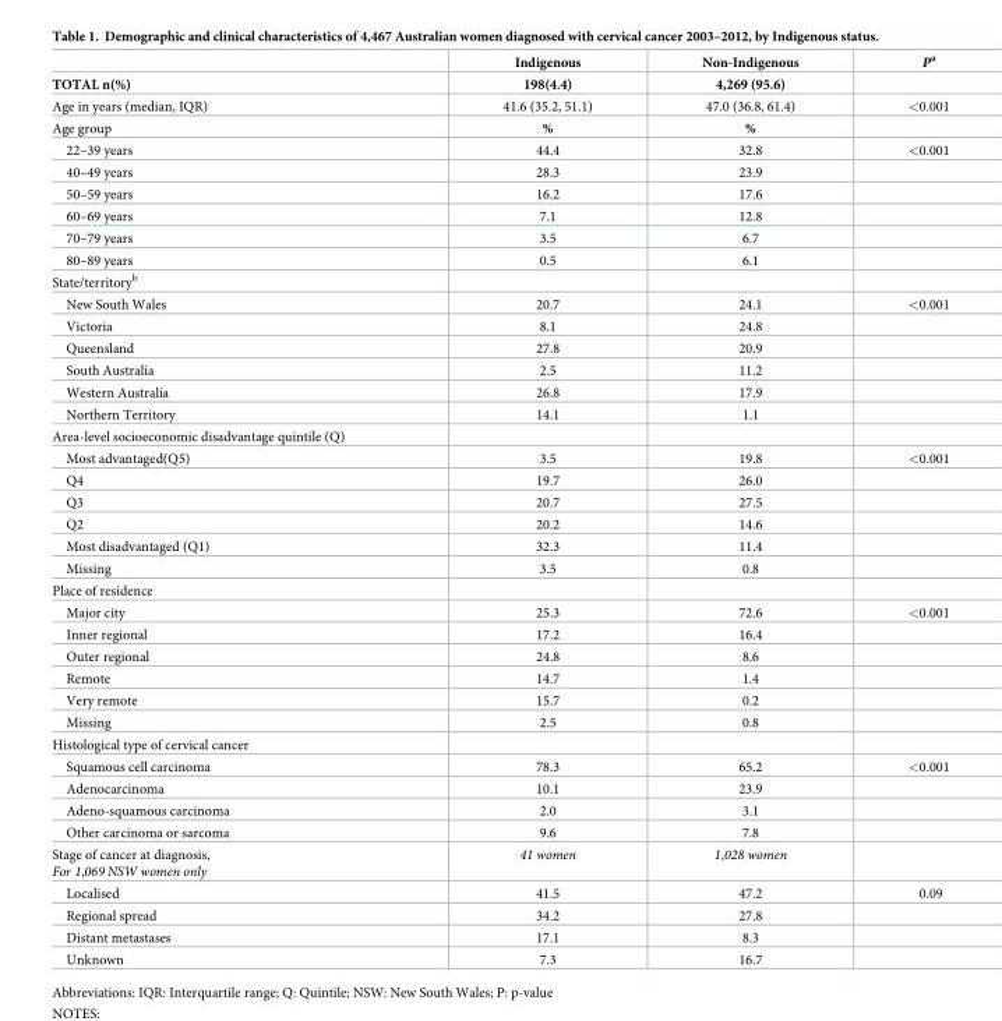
<table><thead><tr><td rowspan="2">TOTAL n(%)</td><td rowspan="2">Indigenous 198(4.4)</td><td rowspan="2">Non-Indigenous 4,269 (95.6)</td><td rowspan="2">P<sup>a</sup></td></tr><tr></tr></thead><tbody><tr><td>Age in years (median, IQR)</td><td>41.6 (35.2, 51.1)</td><td>47.0 (36.8, 61.4)</td><td>&lt;0.001</td></tr><tr><td>Age group</td><td>%</td><td>%</td><td></td></tr><tr><td>22–39 years</td><td>44.4</td><td>32.8</td><td>&lt;0.001</td></tr><tr><td>40–49 years</td><td>28.3</td><td>23.9</td><td></td></tr><tr><td>50–59 years</td><td>16.2</td><td>17.6</td><td></td></tr><tr><td>60–69 years</td><td>7.1</td><td>12.8</td><td></td></tr><tr><td>70–79 years</td><td>3.5</td><td>6.7</td><td></td></tr><tr><td>80–89 years</td><td>0.5</td><td>6.1</td><td></td></tr><tr><td colspan="4">State/territory<sup>b</sup></td></tr><tr><td>New South Wales</td><td>20.7</td><td>24.1</td><td>&lt;0.001</td></tr><tr><td>Victoria</td><td>8.1</td><td>24.8</td><td></td></tr><tr><td>Queensland</td><td>27.8</td><td>20.9</td><td></td></tr><tr><td>South Australia</td><td>2.5</td><td>11.2</td><td></td></tr><tr><td>Western Australia</td><td>26.8</td><td>17.9</td><td></td></tr><tr><td>Northern Territory</td><td>14.1</td><td>1.1</td><td></td></tr><tr><td colspan="4">Area-level socioeconomic disadvantage quintile (Q)</td></tr><tr><td>Most advantaged(Q5)</td><td>3.5</td><td>19.8</td><td>&lt;0.001</td></tr><tr><td>Q4</td><td>19.7</td><td>26.0</td><td></td></tr><tr><td>Q3</td><td>20.7</td><td>27.5</td><td></td></tr><tr><td>Q2</td><td>20.2</td><td>14.6</td><td></td></tr><tr><td>Most disadvantaged (Q1)</td><td>32.3</td><td>11.4</td><td></td></tr><tr><td>Missing</td><td>3.5</td><td>0.8</td><td></td></tr><tr><td colspan="4">Place of residence</td></tr><tr><td>Major city</td><td>25.3</td><td>72.6</td><td>&lt;0.001</td></tr><tr><td>Inner regional</td><td>17.2</td><td>16.4</td><td></td></tr><tr><td>Outer regional</td><td>24.8</td><td>8.6</td><td></td></tr><tr><td>Remote</td><td>14.7</td><td>1.4</td><td></td></tr><tr><td>Very remote</td><td>15.7</td><td>0.2</td><td></td></tr><tr><td>Missing</td><td>2.5</td><td>0.8</td><td></td></tr><tr><td colspan="4">Histological type of cervical cancer</td></tr><tr><td>Squamous cell carcinoma</td><td>78.3</td><td>65.2</td><td>&lt;0.001</td></tr><tr><td>Adenocarcinoma</td><td>10.1</td><td>23.9</td><td></td></tr><tr><td>Adeno-squamous carcinoma</td><td>2.0</td><td>3.1</td><td></td></tr><tr><td>Other carcinoma or sarcoma</td><td>9.6</td><td>7.8</td><td></td></tr><tr><td>Stage of cancer at diagnosis, For 1,069 NSW women only</td><td>41 women</td><td>1,028 women</td><td></td></tr><tr><td>Localised</td><td>41.5</td><td>47.2</td><td>0.09</td></tr><tr><td>Regional spread</td><td>34.2</td><td>27.8</td><td></td></tr><tr><td>Distant metastases</td><td>17.1</td><td>8.3</td><td></td></tr><tr><td>Unknown</td><td>7.3</td><td>16.7</td><td></td></tr></tbody></table>